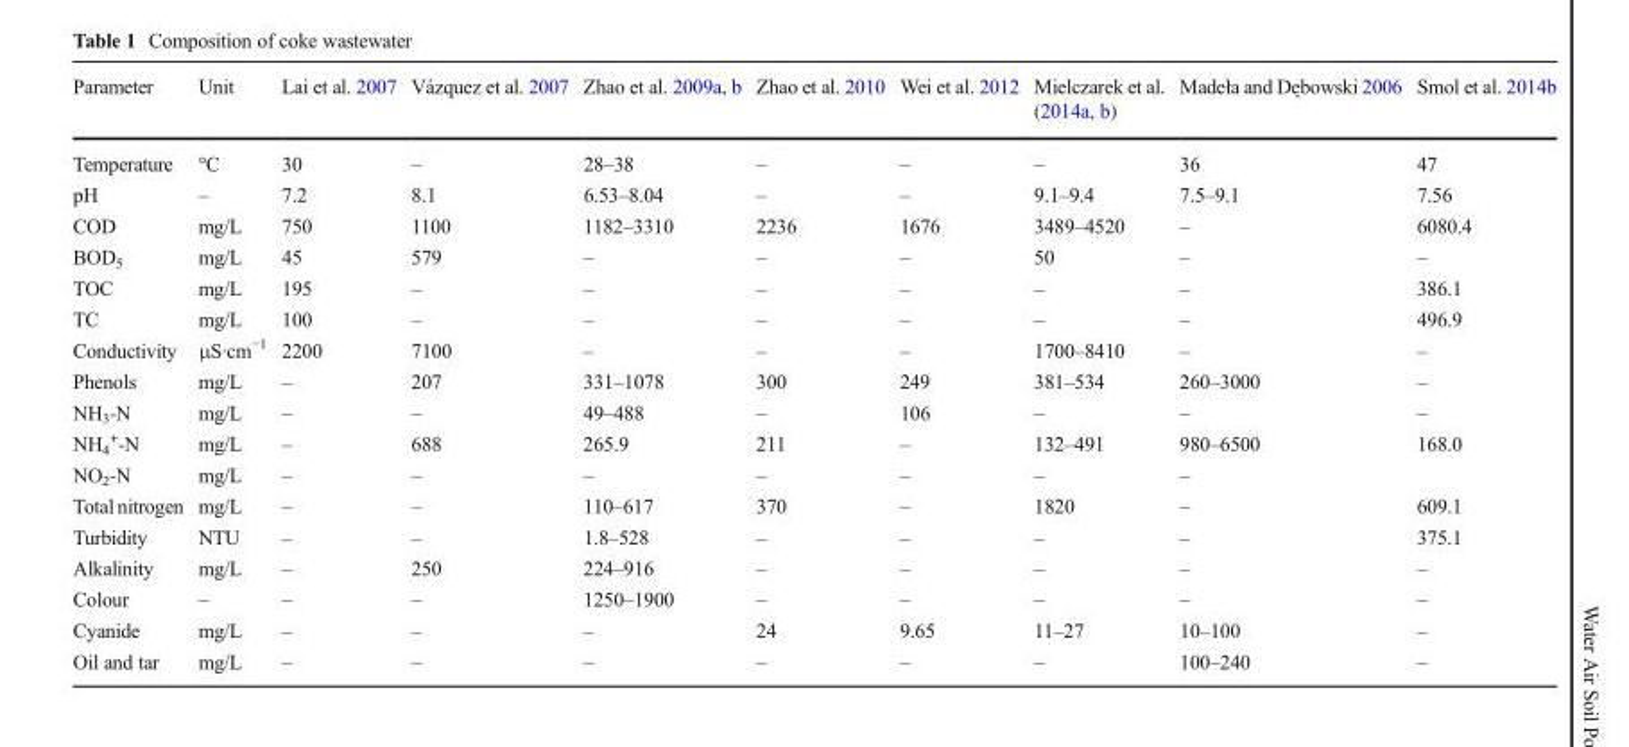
<table><thead><tr><td>Parameter</td><td>Unit</td><td>Lai et al. 2007</td><td>Vázquez et al. 2007</td><td>Zhao et al. 2009a, b</td><td>Zhao et al. 2010</td><td>Wei et al. 2012</td><td>Mielczarek et al. (2014a, b)</td><td>Madeła and Dębowski 2006</td><td>Smol et al. 2014b</td></tr></thead><tbody><tr><td>Temperature</td><td>°C</td><td>30</td><td>–</td><td>28–38</td><td>–</td><td>–</td><td>–</td><td>36</td><td>47</td></tr><tr><td>pH</td><td>–</td><td>7.2</td><td>8.1</td><td>6.53–8.04</td><td>–</td><td>–</td><td>9.1–9.4</td><td>7.5–9.1</td><td>7.56</td></tr><tr><td>COD</td><td>mg/L</td><td>750</td><td>1100</td><td>1182–3310</td><td>2236</td><td>1676</td><td>3489–4520</td><td>–</td><td>6080.4</td></tr><tr><td>BOD<sub>5</sub></td><td>mg/L</td><td>45</td><td>579</td><td>–</td><td>–</td><td>–</td><td>50</td><td>–</td><td>–</td></tr><tr><td>TOC</td><td>mg/L</td><td>195</td><td>–</td><td>–</td><td>–</td><td>–</td><td>–</td><td>–</td><td>386.1</td></tr><tr><td>TC</td><td>mg/L</td><td>100</td><td>–</td><td>–</td><td>–</td><td>–</td><td>–</td><td>–</td><td>496.9</td></tr><tr><td>Conductivity</td><td>μS·cm<sup>−1</sup></td><td>2200</td><td>7100</td><td>–</td><td>–</td><td>–</td><td>1700–8410</td><td>–</td><td>–</td></tr><tr><td>Phenols</td><td>mg/L</td><td>–</td><td>207</td><td>331–1078</td><td>300</td><td>249</td><td>381–534</td><td>260–3000</td><td>–</td></tr><tr><td>NH<sub>3</sub>-N</td><td>mg/L</td><td>–</td><td>–</td><td>49–488</td><td>–</td><td>106</td><td>–</td><td>–</td><td>–</td></tr><tr><td>NH<sub>4</sub> <sup>+</sup>-N</td><td>mg/L</td><td>–</td><td>688</td><td>265.9</td><td>211</td><td>–</td><td>132–491</td><td>980–6500</td><td>168.0</td></tr><tr><td>NO<sub>2</sub>-N</td><td>mg/L</td><td>–</td><td>–</td><td>–</td><td>–</td><td>–</td><td>–</td><td>–</td><td></td></tr><tr><td>Total nitrogen</td><td>mg/L</td><td>–</td><td>–</td><td>110–617</td><td>370</td><td>–</td><td>1820</td><td>–</td><td>609.1</td></tr><tr><td>Turbidity</td><td>NTU</td><td>–</td><td>–</td><td>1.8–528</td><td>–</td><td>–</td><td>–</td><td>–</td><td>375.1</td></tr><tr><td>Alkalinity</td><td>mg/L</td><td>–</td><td>250</td><td>224–916</td><td>–</td><td>–</td><td>–</td><td>–</td><td>–</td></tr><tr><td>Colour</td><td>–</td><td>–</td><td>–</td><td>1250–1900</td><td>–</td><td>–</td><td>–</td><td>–</td><td>–</td></tr><tr><td>Cyanide</td><td>mg/L</td><td>–</td><td>–</td><td>–</td><td>24</td><td>9.65</td><td>11–27</td><td>10–100</td><td>–</td></tr><tr><td>Oil and tar</td><td>mg/L</td><td>–</td><td>–</td><td>–</td><td>–</td><td>–</td><td>–</td><td>100–240</td><td>–</td></tr></tbody></table>